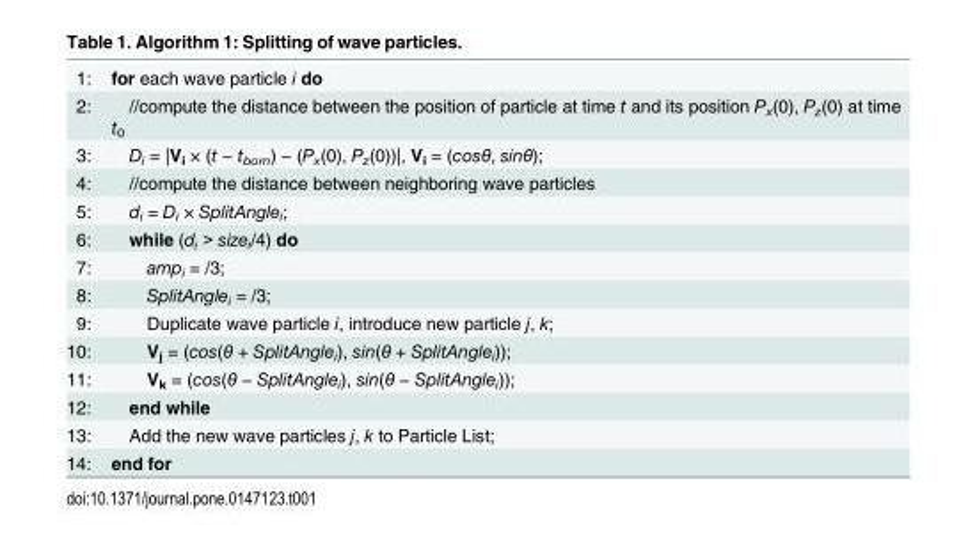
<table><tbody><tr><td>1:</td><td>for each wave particle i do</td></tr><tr><td>2:</td><td>//compute the distance between the position of particle at time t and its position P<sub>x</sub>(0), P<sub>z</sub>(0) at time t<sub>0</sub></td></tr><tr><td>3:</td><td>D<sub>i</sub> = |V<sub>i</sub> × (t − t<sub>born</sub>) − (P<sub>x</sub>(0), P<sub>z</sub>(0))|, V<sub>i</sub> = (cosθ, sinθ);</td></tr><tr><td>4:</td><td>//compute the distance between neighboring wave particles</td></tr><tr><td>5:</td><td>d<sub>i</sub> = D<sub>i</sub> × SplitAngle<sub>i</sub>;</td></tr><tr><td>6:</td><td>while (d<sub>i</sub> &gt; size<sub>i</sub>/4) do</td></tr><tr><td>7:</td><td>amp<sub>i</sub> = /3;</td></tr><tr><td>8:</td><td>SplitAngle<sub>i</sub> = /3;</td></tr><tr><td>9:</td><td>Duplicate wave particle i, introduce new particle j, k;</td></tr><tr><td>10:</td><td>V<sub>j</sub> = (cos(θ + SplitAngle<sub>i</sub>), sin(θ + SplitAngle<sub>i</sub>));</td></tr><tr><td>11:</td><td>V<sub>k</sub> = (cos(θ − SplitAngle<sub>i</sub>), sin(θ − SplitAngle<sub>i</sub>));</td></tr><tr><td>12:</td><td>end while</td></tr><tr><td>13:</td><td>Add the new wave particles j, k to Particle List;</td></tr><tr><td>14:</td><td>end for</td></tr></tbody></table>